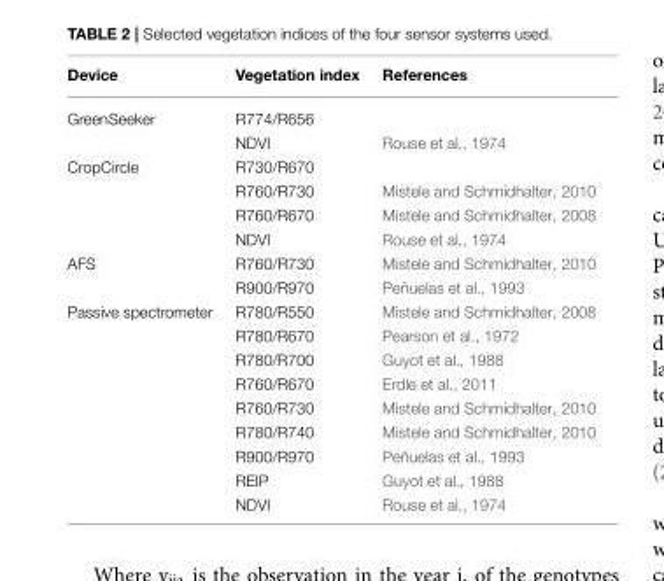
<table><thead><tr><td>Device</td><td>Vegetation index</td><td>References</td></tr></thead><tbody><tr><td rowspan="2">GreenSeeker</td><td>R774/R656</td><td></td></tr><tr><td>NDVI</td><td>Rouse et al., 1974</td></tr><tr><td rowspan="4">CropCircle</td><td>R730/R670</td><td></td></tr><tr><td>R760/R730</td><td>Mistele and Schmidhalter, 2010</td></tr><tr><td>R760/R670</td><td>Mistele and Schmidhalter, 2008</td></tr><tr><td>NDVI</td><td>Rouse et al., 1974</td></tr><tr><td rowspan="2">AFS</td><td>R760/R730</td><td>Mistele and Schmidhalter, 2010</td></tr><tr><td>R900/R970</td><td>Peñuelas et al., 1993</td></tr><tr><td rowspan="9">Passive spectrometer</td><td>R780/R550</td><td>Mistele and Schmidhalter, 2008</td></tr><tr><td>R780/R670</td><td>Pearson et al., 1972</td></tr><tr><td>R780/R700</td><td>Guyot et al., 1988</td></tr><tr><td>R760/R670</td><td>Erdle et al., 2011</td></tr><tr><td>R760/R730</td><td>Mistele and Schmidhalter, 2010</td></tr><tr><td>R780/R740</td><td>Mistele and Schmidhalter, 2010</td></tr><tr><td>R900/R970</td><td>Peñuelas et al., 1993</td></tr><tr><td>REIP</td><td>Guyot et al., 1988</td></tr><tr><td>NDVI</td><td>Rouse et al., 1974</td></tr></tbody></table>